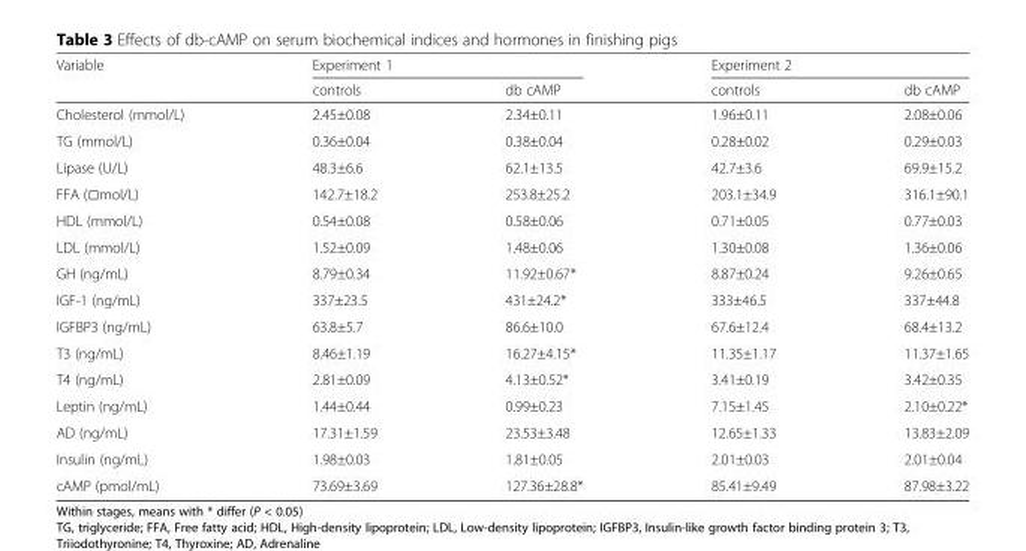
<table><thead><tr><td rowspan="2">Variable</td><td colspan="2">Experiment 1</td><td colspan="2">Experiment 2</td></tr><tr><td>controls</td><td>db cAMP</td><td>controls</td><td>db cAMP</td></tr></thead><tbody><tr><td>Cholesterol (mmol/L)</td><td>2.45±0.08</td><td>2.34±0.11</td><td>1.96±0.11</td><td>2.08±0.06</td></tr><tr><td>TG (mmol/L)</td><td>0.36±0.04</td><td>0.38±0.04</td><td>0.28±0.02</td><td>0.29±0.03</td></tr><tr><td>Lipase (U/L)</td><td>48.3±6.6</td><td>62.1±13.5</td><td>42.7±3.6</td><td>69.9±15.2</td></tr><tr><td>FFA (□mol/L)</td><td>142.7±18.2</td><td>253.8±25.2</td><td>203.1±34.9</td><td>316.1±90.1</td></tr><tr><td>HDL (mmol/L)</td><td>0.54±0.08</td><td>0.58±0.06</td><td>0.71±0.05</td><td>0.77±0.03</td></tr><tr><td>LDL (mmol/L)</td><td>1.52±0.09</td><td>1.48±0.06</td><td>1.30±0.08</td><td>1.36±0.06</td></tr><tr><td>GH (ng/mL)</td><td>8.79±0.34</td><td>11.92±0.67*</td><td>8.87±0.24</td><td>9.26±0.65</td></tr><tr><td>IGF-1 (ng/mL)</td><td>337±23.5</td><td>431±24.2*</td><td>333±46.5</td><td>337±44.8</td></tr><tr><td>IGFBP3 (ng/mL)</td><td>63.8±5.7</td><td>86.6±10.0</td><td>67.6±12.4</td><td>68.4±13.2</td></tr><tr><td>T3 (ng/mL)</td><td>8.46±1.19</td><td>16.27±4.15*</td><td>11.35±1.17</td><td>11.37±1.65</td></tr><tr><td>T4 (ng/mL)</td><td>2.81±0.09</td><td>4.13±0.52*</td><td>3.41±0.19</td><td>3.42±0.35</td></tr><tr><td>Leptin (ng/mL)</td><td>1.44±0.44</td><td>0.99±0.23</td><td>7.15±1.45</td><td>2.10±0.22*</td></tr><tr><td>AD (ng/mL)</td><td>17.31±1.59</td><td>23.53±3.48</td><td>12.65±1.33</td><td>13.83±2.09</td></tr><tr><td>Insulin (ng/mL)</td><td>1.98±0.03</td><td>1.81±0.05</td><td>2.01±0.03</td><td>2.01±0.04</td></tr><tr><td>cAMP (pmol/mL)</td><td>73.69±3.69</td><td>127.36±28.8*</td><td>85.41±9.49</td><td>87.98±3.22</td></tr></tbody></table>